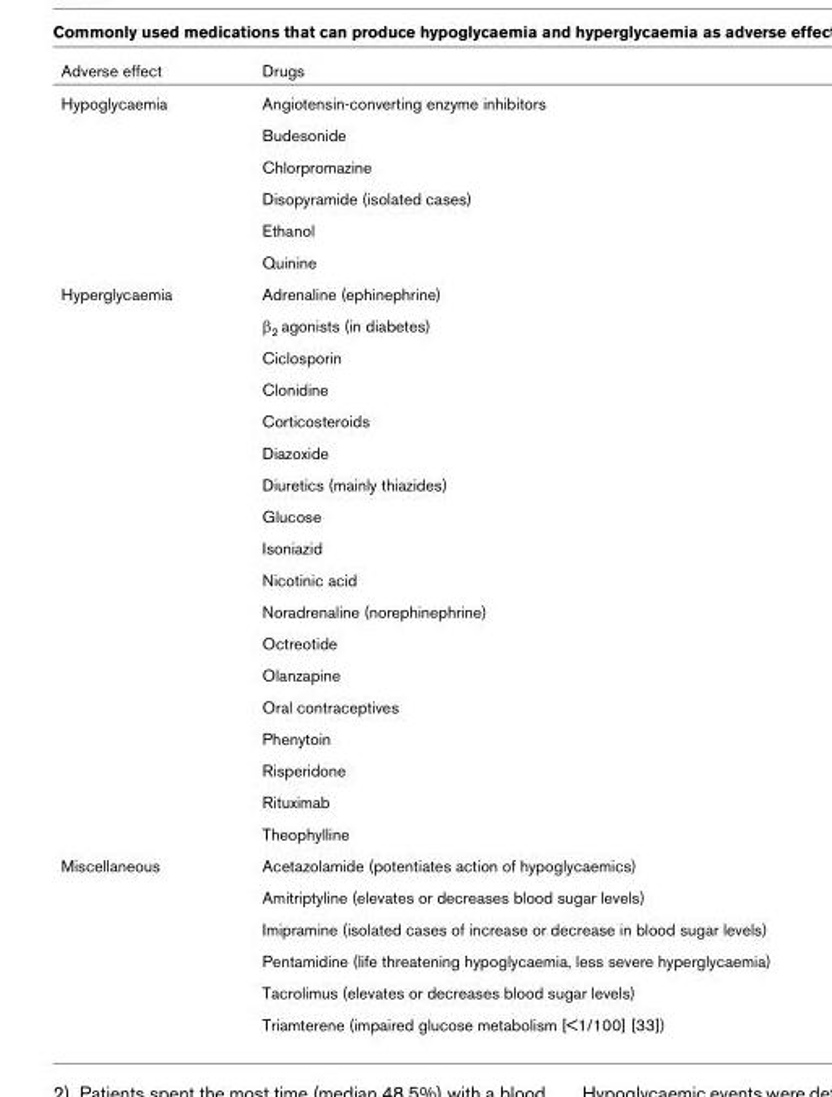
<table><thead><tr><td>Adverse effect</td><td>Drugs</td></tr></thead><tbody><tr><td rowspan="6">Hypoglycaemia</td><td>Angiotensin-converting enzyme inhibitors</td></tr><tr><td>Budesonide</td></tr><tr><td>Chlorpromazine</td></tr><tr><td>Disopyramide (isolated cases)</td></tr><tr><td>Ethanol</td></tr><tr><td>Quinine</td></tr><tr><td rowspan="18">Hyperglycaemia</td><td>Adrenaline (ephinephrine)</td></tr><tr><td>β<sub>2</sub> agonists (in diabetes)</td></tr><tr><td>Ciclosporin</td></tr><tr><td>Clonidine</td></tr><tr><td>Corticosteroids</td></tr><tr><td>Diazoxide</td></tr><tr><td>Diuretics (mainly thiazides)</td></tr><tr><td>Glucose</td></tr><tr><td>Isoniazid</td></tr><tr><td>Nicotinic acid</td></tr><tr><td>Noradrenaline (norephinephrine)</td></tr><tr><td>Octreotide</td></tr><tr><td>Olanzapine</td></tr><tr><td>Oral contraceptives</td></tr><tr><td>Phenytoin</td></tr><tr><td>Risperidone</td></tr><tr><td>Rituximab</td></tr><tr><td>Theophylline</td></tr><tr><td rowspan="6">Miscellaneous</td><td>Acetazolamide (potentiates action of hypoglycaemics)</td></tr><tr><td>Amitriptyline (elevates or decreases blood sugar levels)</td></tr><tr><td>Imipramine (isolated cases of increase or decrease in blood sugar levels)</td></tr><tr><td>Pentamidine (life threatening hypoglycaemia, less severe hyperglycaemia)</td></tr><tr><td>Tacrolimus (elevates or decreases blood sugar levels)</td></tr><tr><td>Triamterene (impaired glucose metabolism [&lt;1/100] [33])</td></tr></tbody></table>